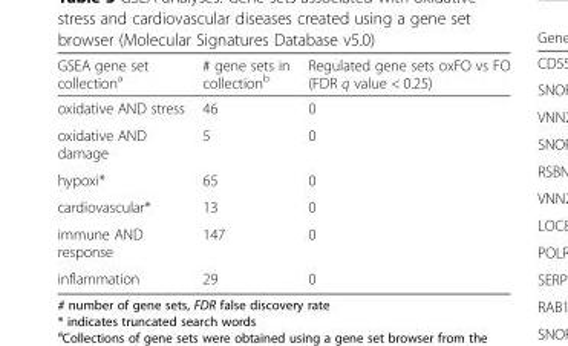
<table><thead><tr><td>GSEA gene set collection<sup>a</sup></td><td># gene sets in collection<sup>b</sup></td><td>Regulated gene sets oxFO vs FO (FDR q value &lt; 0.25)</td></tr></thead><tbody><tr><td>oxidative AND stress</td><td>46</td><td>0</td></tr><tr><td>oxidative AND damage</td><td>5</td><td>0</td></tr><tr><td>hypoxi*</td><td>65</td><td>0</td></tr><tr><td>cardiovascular*</td><td>13</td><td>0</td></tr><tr><td>immune AND response</td><td>147</td><td>0</td></tr><tr><td>inflammation</td><td>29</td><td>0</td></tr></tbody></table>